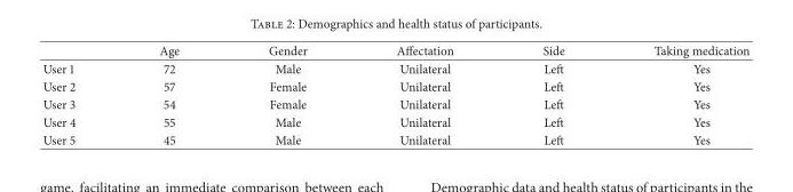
<table><thead><tr><td></td><td>Age</td><td>Gender</td><td>Affectation</td><td>Side</td><td>Taking medication</td></tr></thead><tbody><tr><td>User 1</td><td>72</td><td>Male</td><td>Unilateral</td><td>Left</td><td>Yes</td></tr><tr><td>User 2</td><td>57</td><td>Female</td><td>Unilateral</td><td>Left</td><td>Yes</td></tr><tr><td>User 3</td><td>54</td><td>Female</td><td>Unilateral</td><td>Left</td><td>Yes</td></tr><tr><td>User 4</td><td>55</td><td>Male</td><td>Unilateral</td><td>Left</td><td>Yes</td></tr><tr><td>User 5</td><td>45</td><td>Male</td><td>Unilateral</td><td>Left</td><td>Yes</td></tr></tbody></table>